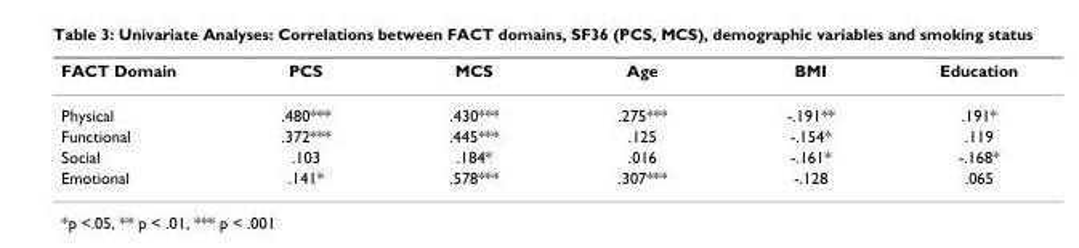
<table><thead><tr><td>FACT Domain</td><td>PCS</td><td>MCS</td><td>Age</td><td>BMI</td><td>Education</td></tr></thead><tbody><tr><td>Physical</td><td>.480***</td><td>.430***</td><td>.275***</td><td>-.191**</td><td>.191*</td></tr><tr><td>Functional</td><td>.372***</td><td>.445***</td><td>.125</td><td>-.154*</td><td>.119</td></tr><tr><td>Social</td><td>.103</td><td>.184*</td><td>.016</td><td>-.161*</td><td>-.168*</td></tr><tr><td>Emotional</td><td>.141*</td><td>.578***</td><td>.307***</td><td>-.128</td><td>.065</td></tr></tbody></table>